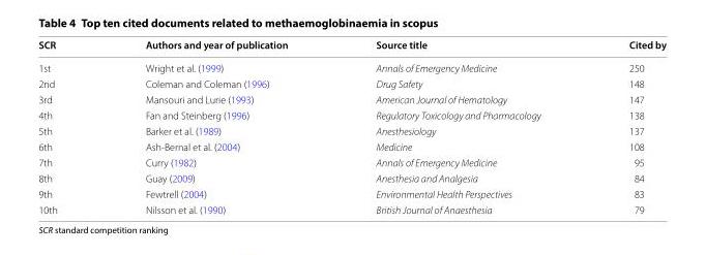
<table><thead><tr><td>SCR</td><td>Authors and year of publication</td><td>Source title</td><td>Cited by</td></tr></thead><tbody><tr><td>1st</td><td>Wright et al. (1999)</td><td>Annals of Emergency Medicine</td><td>250</td></tr><tr><td>2nd</td><td>Coleman and Coleman (1996)</td><td>Drug Safety</td><td>148</td></tr><tr><td>3rd</td><td>Mansouri and Lurie (1993)</td><td>American Journal of Hematology</td><td>147</td></tr><tr><td>4th</td><td>Fan and Steinberg (1996)</td><td>Regulatory Toxicology and Pharmacology</td><td>138</td></tr><tr><td>5th</td><td>Barker et al. (1989)</td><td>Anesthesiology</td><td>137</td></tr><tr><td>6th</td><td>Ash‑Bernal et al. (2004)</td><td>Medicine</td><td>108</td></tr><tr><td>7th</td><td>Curry (1982)</td><td>Annals of Emergency Medicine</td><td>95</td></tr><tr><td>8th</td><td>Guay (2009)</td><td>Anesthesia and Analgesia</td><td>84</td></tr><tr><td>9th</td><td>Fewtrell (2004)</td><td>Environmental Health Perspectives</td><td>83</td></tr><tr><td>10th</td><td>Nilsson et al. (1990)</td><td>British Journal of Anaesthesia</td><td>79</td></tr></tbody></table>